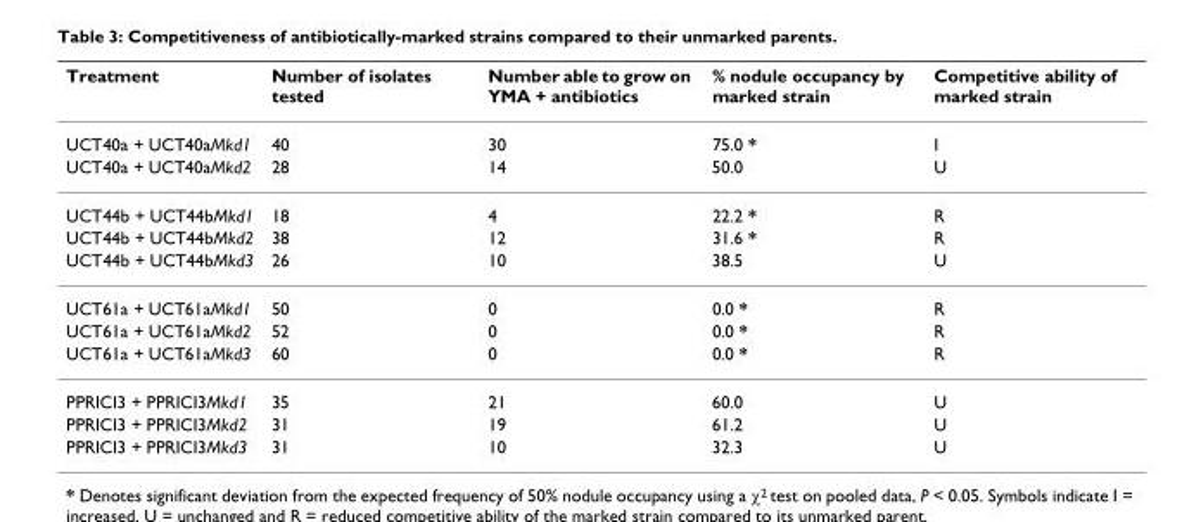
<table><thead><tr><td>Treatment</td><td>Number of isolates tested</td><td>Number able to grow on YMA + antibiotics</td><td>% nodule occupancy by marked strain</td><td>Competitive ability of marked strain</td></tr></thead><tbody><tr><td>UCT40a + UCT40aMkd1</td><td>40</td><td>30</td><td>75.0 *</td><td>I</td></tr><tr><td>UCT40a + UCT40aMkd2</td><td>28</td><td>14</td><td>50.0</td><td>U</td></tr><tr><td>UCT44b + UCT44bMkd1</td><td>18</td><td>4</td><td>22.2 *</td><td>R</td></tr><tr><td>UCT44b + UCT44bMkd2</td><td>38</td><td>12</td><td>31.6 *</td><td>R</td></tr><tr><td>UCT44b + UCT44bMkd3</td><td>26</td><td>10</td><td>38.5</td><td>U</td></tr><tr><td>UCT61a + UCT61aMkd1</td><td>50</td><td>0</td><td>0.0 *</td><td>R</td></tr><tr><td>UCT61a + UCT61aMkd2</td><td>52</td><td>0</td><td>0.0 *</td><td>R</td></tr><tr><td>UCT61a + UCT61aMkd3</td><td>60</td><td>0</td><td>0.0 *</td><td>R</td></tr><tr><td>PPRICI3 + PPRICI3Mkd1</td><td>35</td><td>21</td><td>60.0</td><td>U</td></tr><tr><td>PPRICI3 + PPRICI3Mkd2</td><td>31</td><td>19</td><td>61.2</td><td>U</td></tr><tr><td>PPRICI3 + PPRICI3Mkd3</td><td>31</td><td>10</td><td>32.3</td><td>U</td></tr></tbody></table>